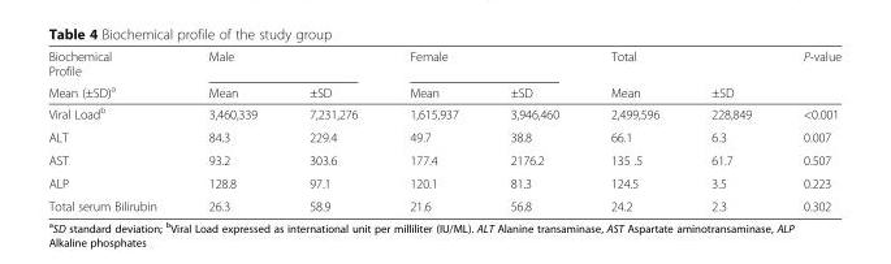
<table><thead><tr><td rowspan="2">Biochemical Profile Mean (±SD)<sup>a</sup></td><td colspan="2">Male</td><td colspan="2">Female</td><td rowspan="2">Total Mean</td><td rowspan="2">±SD</td><td rowspan="2">P-value</td></tr><tr><td>Mean</td><td>±SD</td><td>Mean</td><td>±SD</td></tr></thead><tbody><tr><td>Viral Load<sup>b</sup></td><td>3,460,339</td><td>7,231,276</td><td>1,615,937</td><td>3,946,460</td><td>2,499,596</td><td>228,849</td><td>&lt;0.001</td></tr><tr><td>ALT</td><td>84.3</td><td>229.4</td><td>49.7</td><td>38.8</td><td>66.1</td><td>6.3</td><td>0.007</td></tr><tr><td>AST</td><td>93.2</td><td>303.6</td><td>177.4</td><td>2176.2</td><td>135 .5</td><td>61.7</td><td>0.507</td></tr><tr><td>ALP</td><td>128.8</td><td>97.1</td><td>120.1</td><td>81.3</td><td>124.5</td><td>3.5</td><td>0.223</td></tr><tr><td>Total serum Bilirubin</td><td>26.3</td><td>58.9</td><td>21.6</td><td>56.8</td><td>24.2</td><td>2.3</td><td>0.302</td></tr></tbody></table>